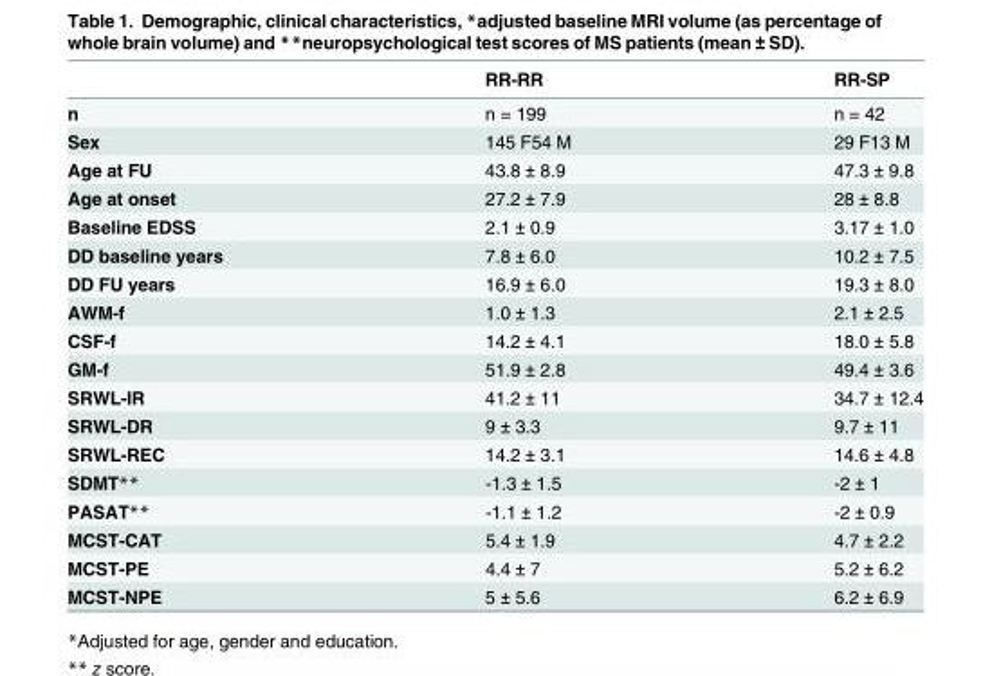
<table><thead><tr><td></td><td>RR-RR</td><td>RR-SP</td></tr></thead><tbody><tr><td>n</td><td>n = 199</td><td>n = 42</td></tr><tr><td>Sex</td><td>145 F54 M</td><td>29 F13 M</td></tr><tr><td>Age at FU</td><td>43.8 ± 8.9</td><td>47.3 ± 9.8</td></tr><tr><td>Age at onset</td><td>27.2 ± 7.9</td><td>28 ± 8.8</td></tr><tr><td>Baseline EDSS</td><td>2.1 ± 0.9</td><td>3.17 ± 1.0</td></tr><tr><td>DD baseline years</td><td>7.8 ± 6.0</td><td>10.2 ± 7.5</td></tr><tr><td>DD FU years</td><td>16.9 ± 6.0</td><td>19.3 ± 8.0</td></tr><tr><td>AWM-f</td><td>1.0 ± 1.3</td><td>2.1 ± 2.5</td></tr><tr><td>CSF-f</td><td>14.2 ± 4.1</td><td>18.0 ± 5.8</td></tr><tr><td>GM-f</td><td>51.9 ± 2.8</td><td>49.4 ± 3.6</td></tr><tr><td>SRWL-IR</td><td>41.2 ± 11</td><td>34.7 ± 12.4</td></tr><tr><td>SRWL-DR</td><td>9 ± 3.3</td><td>9.7 ± 11</td></tr><tr><td>SRWL-REC</td><td>14.2 ± 3.1</td><td>14.6 ± 4.8</td></tr><tr><td>SDMT**</td><td>-1.3 ± 1.5</td><td>-2 ± 1</td></tr><tr><td>PASAT**</td><td>-1.1 ± 1.2</td><td>-2 ± 0.9</td></tr><tr><td>MCST-CAT</td><td>5.4 ± 1.9</td><td>4.7 ± 2.2</td></tr><tr><td>MCST-PE</td><td>4.4 ± 7</td><td>5.2 ± 6.2</td></tr><tr><td>MCST-NPE</td><td>5 ± 5.6</td><td>6.2 ± 6.9</td></tr></tbody></table>